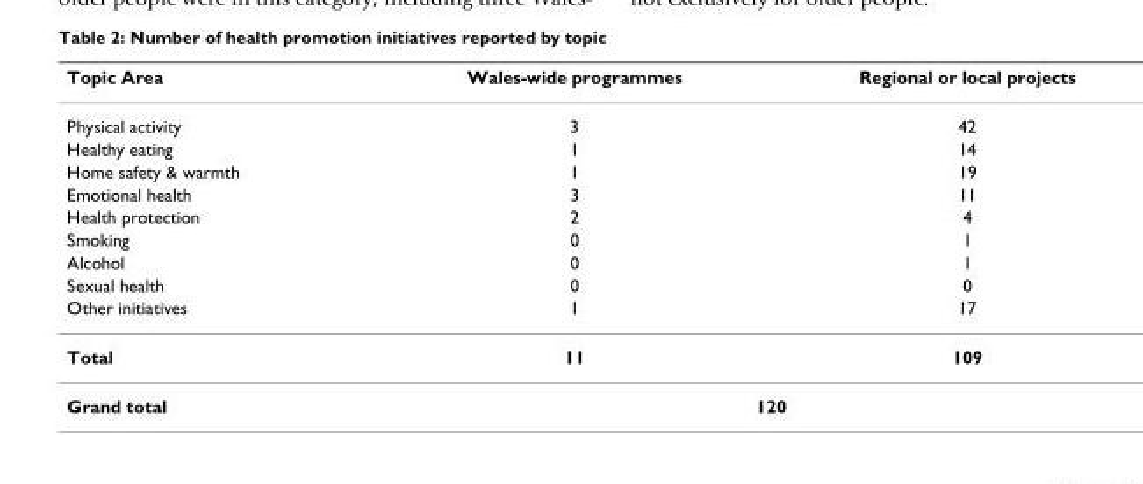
<table><thead><tr><td>Topic Area</td><td>Wales-wide programmes</td><td>Regional or local projects</td></tr></thead><tbody><tr><td>Physical activity</td><td>3</td><td>42</td></tr><tr><td>Healthy eating</td><td>1</td><td>14</td></tr><tr><td>Home safety &amp; warmth</td><td>1</td><td>19</td></tr><tr><td>Emotional health</td><td>3</td><td>11</td></tr><tr><td>Health protection</td><td>2</td><td>4</td></tr><tr><td>Smoking</td><td>0</td><td>1</td></tr><tr><td>Alcohol</td><td>0</td><td>1</td></tr><tr><td>Sexual health</td><td>0</td><td>0</td></tr><tr><td>Other initiatives</td><td>1</td><td>17</td></tr><tr><td>Total</td><td>11</td><td>109</td></tr><tr><td>Grand total</td><td colspan="2">120</td></tr></tbody></table>